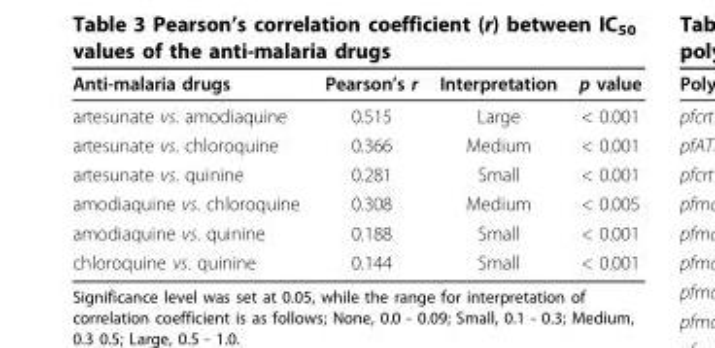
<table><thead><tr><td>Anti-malaria drugs</td><td>Pearson’s r</td><td>Interpretation</td><td>p value</td></tr></thead><tbody><tr><td>artesunate vs. amodiaquine</td><td>0.515</td><td>Large</td><td>&lt; 0.001</td></tr><tr><td>artesunate vs. chloroquine</td><td>0.366</td><td>Medium</td><td>&lt; 0.001</td></tr><tr><td>artesunate vs. quinine</td><td>0.281</td><td>Small</td><td>&lt; 0.001</td></tr><tr><td>amodiaquine vs. chloroquine</td><td>0.308</td><td>Medium</td><td>&lt; 0.005</td></tr><tr><td>amodiaquine vs. quinine</td><td>0.188</td><td>Small</td><td>&lt; 0.001</td></tr><tr><td>chloroquine vs. quinine</td><td>0.144</td><td>Small</td><td>&lt; 0.001</td></tr></tbody></table>